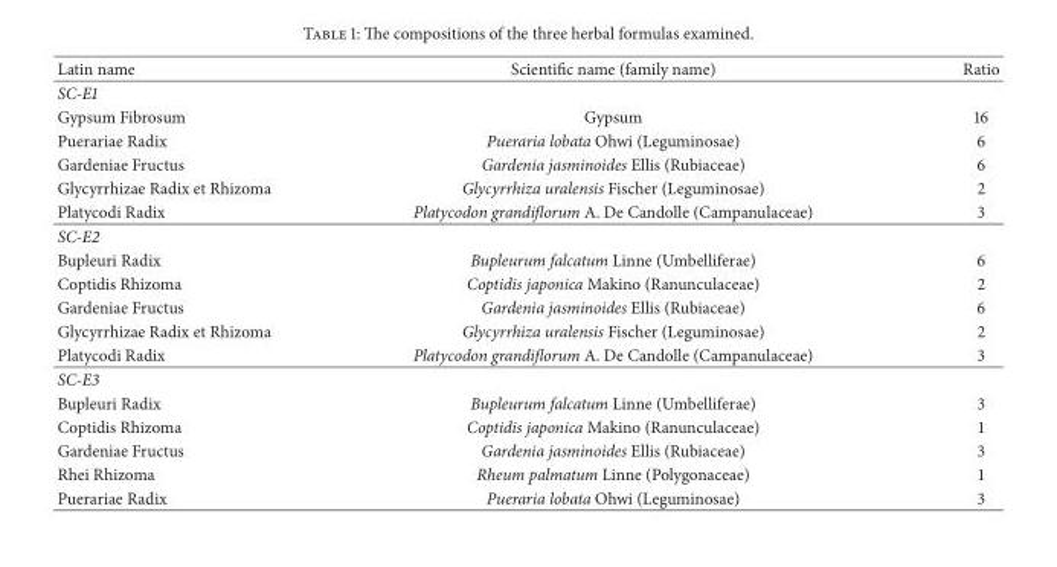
<table><thead><tr><td>Latin name</td><td>Scientific name (family name)</td><td>Ratio</td></tr></thead><tbody><tr><td colspan="3">SC-E1</td></tr><tr><td>Gypsum Fibrosum</td><td>Gypsum</td><td>16</td></tr><tr><td>Puerariae Radix</td><td>Pueraria lobata Ohwi (Leguminosae)</td><td>6</td></tr><tr><td>Gardeniae Fructus</td><td>Gardenia jasminoides Ellis (Rubiaceae)</td><td>6</td></tr><tr><td>Glycyrrhizae Radix et Rhizoma</td><td>Glycyrrhiza uralensis Fischer (Leguminosae)</td><td>2</td></tr><tr><td>Platycodi Radix</td><td>Platycodon grandiflorum A. De Candolle (Campanulaceae)</td><td>3</td></tr><tr><td colspan="3">SC-E2</td></tr><tr><td>Bupleuri Radix</td><td>Bupleurum falcatum Linne (Umbelliferae)</td><td>6</td></tr><tr><td>Coptidis Rhizoma</td><td>Coptidis japonica Makino (Ranunculaceae)</td><td>2</td></tr><tr><td>Gardeniae Fructus</td><td>Gardenia jasminoides Ellis (Rubiaceae)</td><td>6</td></tr><tr><td>Glycyrrhizae Radix et Rhizoma</td><td>Glycyrrhiza uralensis Fischer (Leguminosae)</td><td>2</td></tr><tr><td>Platycodi Radix</td><td>Platycodon grandiflorum A. De Candolle (Campanulaceae)</td><td>3</td></tr><tr><td colspan="3">SC-E3</td></tr><tr><td>Bupleuri Radix</td><td>Bupleurum falcatum Linne (Umbelliferae)</td><td>3</td></tr><tr><td>Coptidis Rhizoma</td><td>Coptidis japonica Makino (Ranunculaceae)</td><td>1</td></tr><tr><td>Gardeniae Fructus</td><td>Gardenia jasminoides Ellis (Rubiaceae)</td><td>3</td></tr><tr><td>Rhei Rhizoma</td><td>Rheum palmatum Linne (Polygonaceae)</td><td>1</td></tr><tr><td>Puerariae Radix</td><td>Pueraria lobata Ohwi (Leguminosae)</td><td>3</td></tr></tbody></table>